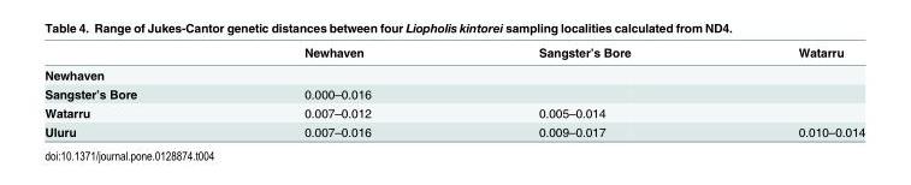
<table><thead><tr><td></td><td>Newhaven</td><td>Sangster’s Bore</td><td>Watarru</td></tr></thead><tbody><tr><td colspan="4">Newhaven</td></tr><tr><td>Sangster’s Bore</td><td>0.000–0.016</td><td></td><td></td></tr><tr><td>Watarru</td><td>0.007–0.012</td><td>0.005–0.014</td><td></td></tr><tr><td>Uluru</td><td>0.007–0.016</td><td>0.009–0.017</td><td>0.010–0.014</td></tr></tbody></table>